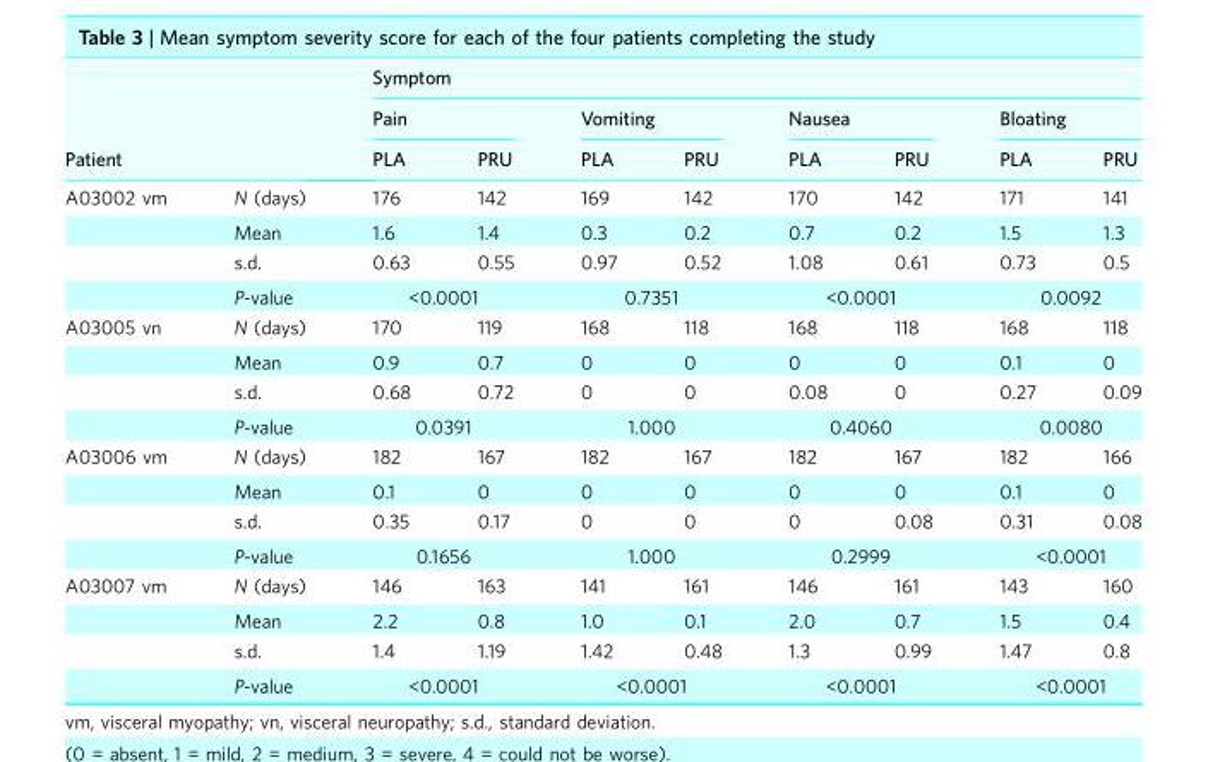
<table><thead><tr><td rowspan="3">Patient</td><td rowspan="3"></td><td colspan="8">Symptom</td></tr><tr><td colspan="2">Pain</td><td colspan="2">Vomiting</td><td colspan="2">Nausea</td><td colspan="2">Bloating</td></tr><tr><td>PLA</td><td>PRU</td><td>PLA</td><td>PRU</td><td>PLA</td><td>PRU</td><td>PLA</td><td>PRU</td></tr></thead><tbody><tr><td rowspan="4">A03002 vm</td><td>N (days)</td><td>176</td><td>142</td><td>169</td><td>142</td><td>170</td><td>142</td><td>171</td><td>141</td></tr><tr><td>Mean</td><td>1.6</td><td>1.4</td><td>0.3</td><td>0.2</td><td>0.7</td><td>0.2</td><td>1.5</td><td>1.3</td></tr><tr><td>s.d.</td><td>0.63</td><td>0.55</td><td>0.97</td><td>0.52</td><td>1.08</td><td>0.61</td><td>0.73</td><td>0.5</td></tr><tr><td>P-value</td><td colspan="2">&lt;0.0001</td><td colspan="2">0.7351</td><td colspan="2">&lt;0.0001</td><td colspan="2">0.0092</td></tr><tr><td rowspan="4">A03005 vn</td><td>N (days)</td><td>170</td><td>119</td><td>168</td><td>118</td><td>168</td><td>118</td><td>168</td><td>118</td></tr><tr><td>Mean</td><td>0.9</td><td>0.7</td><td>0</td><td>0</td><td>0</td><td>0</td><td>0.1</td><td>0</td></tr><tr><td>s.d.</td><td>0.68</td><td>0.72</td><td>0</td><td>0</td><td>0.08</td><td>0</td><td>0.27</td><td>0.09</td></tr><tr><td>P-value</td><td colspan="2">0.0391</td><td colspan="2">1.000</td><td colspan="2">0.4060</td><td colspan="2">0.0080</td></tr><tr><td rowspan="4">A03006 vm</td><td>N (days)</td><td>182</td><td>167</td><td>182</td><td>167</td><td>182</td><td>167</td><td>182</td><td>166</td></tr><tr><td>Mean</td><td>0.1</td><td>0</td><td>0</td><td>0</td><td>0</td><td>0</td><td>0.1</td><td>0</td></tr><tr><td>s.d.</td><td>0.35</td><td>0.17</td><td>0</td><td>0</td><td>0</td><td>0.08</td><td>0.31</td><td>0.08</td></tr><tr><td>P-value</td><td colspan="2">0.1656</td><td colspan="2">1.000</td><td colspan="2">0.2999</td><td colspan="2">&lt;0.0001</td></tr><tr><td rowspan="4">A03007 vm</td><td>N (days)</td><td>146</td><td>163</td><td>141</td><td>161</td><td>146</td><td>161</td><td>143</td><td>160</td></tr><tr><td>Mean</td><td>2.2</td><td>0.8</td><td>1.0</td><td>0.1</td><td>2.0</td><td>0.7</td><td>1.5</td><td>0.4</td></tr><tr><td>s.d.</td><td>1.4</td><td>1.19</td><td>1.42</td><td>0.48</td><td>1.3</td><td>0.99</td><td>1.47</td><td>0.8</td></tr><tr><td>P-value</td><td colspan="2">&lt;0.0001</td><td colspan="2">&lt;0.0001</td><td colspan="2">&lt;0.0001</td><td colspan="2">&lt;0.0001</td></tr></tbody></table>